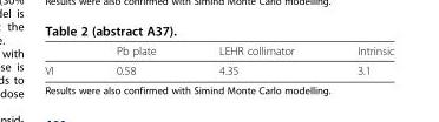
<table><thead><tr><td></td><td>Pb plate</td><td>LEHR collimator</td><td>Intrinsic</td></tr></thead><tbody><tr><td>VI</td><td>0.58</td><td>4.35</td><td>3.1</td></tr></tbody></table>